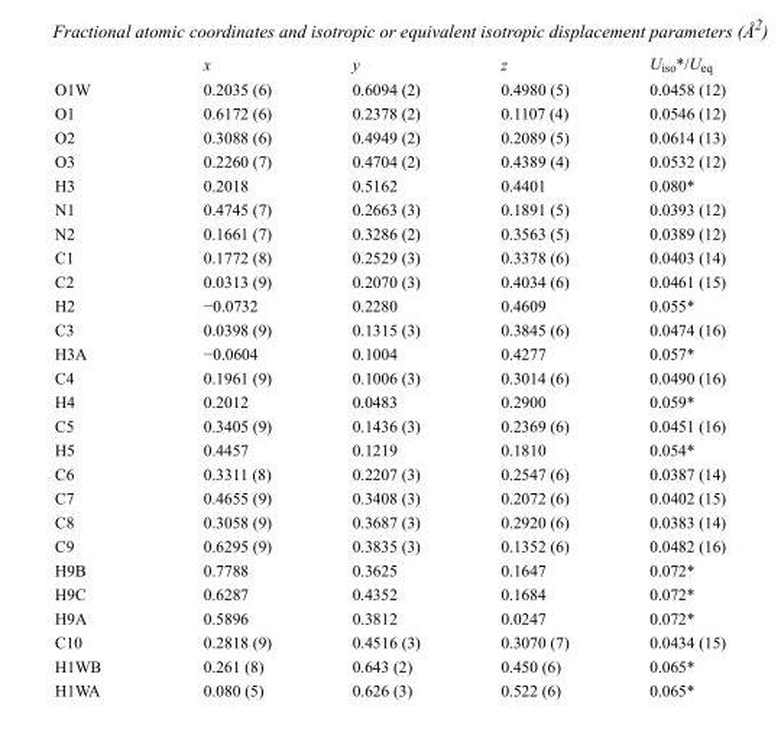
<table><thead><tr><td></td><td>x</td><td>y</td><td>z</td><td>U<sub>iso</sub>*/U<sub>eq</sub></td></tr></thead><tbody><tr><td>O1W</td><td>0.2035 (6)</td><td>0.6094 (2)</td><td>0.4980 (5)</td><td>0.0458 (12)</td></tr><tr><td>O1</td><td>0.6172 (6)</td><td>0.2378 (2)</td><td>0.1107 (4)</td><td>0.0546 (12)</td></tr><tr><td>O2</td><td>0.3088 (6)</td><td>0.4949 (2)</td><td>0.2089 (5)</td><td>0.0614 (13)</td></tr><tr><td>O3</td><td>0.2260 (7)</td><td>0.4704 (2)</td><td>0.4389 (4)</td><td>0.0532 (12)</td></tr><tr><td>H3</td><td>0.2018</td><td>0.5162</td><td>0.4401</td><td>0.080*</td></tr><tr><td>N1</td><td>0.4745 (7)</td><td>0.2663 (3)</td><td>0.1891 (5)</td><td>0.0393 (12)</td></tr><tr><td>N2</td><td>0.1661 (7)</td><td>0.3286 (2)</td><td>0.3563 (5)</td><td>0.0389 (12)</td></tr><tr><td>C1</td><td>0.1772 (8)</td><td>0.2529 (3)</td><td>0.3378 (6)</td><td>0.0403 (14)</td></tr><tr><td>C2</td><td>0.0313 (9)</td><td>0.2070 (3)</td><td>0.4034 (6)</td><td>0.0461 (15)</td></tr><tr><td>H2</td><td>−0.0732</td><td>0.2280</td><td>0.4609</td><td>0.055*</td></tr><tr><td>C3</td><td>0.0398 (9)</td><td>0.1315 (3)</td><td>0.3845 (6)</td><td>0.0474 (16)</td></tr><tr><td>H3A</td><td>−0.0604</td><td>0.1004</td><td>0.4277</td><td>0.057*</td></tr><tr><td>C4</td><td>0.1961 (9)</td><td>0.1006 (3)</td><td>0.3014 (6)</td><td>0.0490 (16)</td></tr><tr><td>H4</td><td>0.2012</td><td>0.0483</td><td>0.2900</td><td>0.059*</td></tr><tr><td>C5</td><td>0.3405 (9)</td><td>0.1436 (3)</td><td>0.2369 (6)</td><td>0.0451 (16)</td></tr><tr><td>H5</td><td>0.4457</td><td>0.1219</td><td>0.1810</td><td>0.054*</td></tr><tr><td>C6</td><td>0.3311 (8)</td><td>0.2207 (3)</td><td>0.2547 (6)</td><td>0.0387 (14)</td></tr><tr><td>C7</td><td>0.4655 (9)</td><td>0.3408 (3)</td><td>0.2072 (6)</td><td>0.0402 (15)</td></tr><tr><td>C8</td><td>0.3058 (9)</td><td>0.3687 (3)</td><td>0.2920 (6)</td><td>0.0383 (14)</td></tr><tr><td>C9</td><td>0.6295 (9)</td><td>0.3835 (3)</td><td>0.1352 (6)</td><td>0.0482 (16)</td></tr><tr><td>H9B</td><td>0.7788</td><td>0.3625</td><td>0.1647</td><td>0.072*</td></tr><tr><td>H9C</td><td>0.6287</td><td>0.4352</td><td>0.1684</td><td>0.072*</td></tr><tr><td>H9A</td><td>0.5896</td><td>0.3812</td><td>0.0247</td><td>0.072*</td></tr><tr><td>C10</td><td>0.2818 (9)</td><td>0.4516 (3)</td><td>0.3070 (7)</td><td>0.0434 (15)</td></tr><tr><td>H1WB</td><td>0.261 (8)</td><td>0.643 (2)</td><td>0.450 (6)</td><td>0.065*</td></tr><tr><td>H1WA</td><td>0.080 (5)</td><td>0.626 (3)</td><td>0.522 (6)</td><td>0.065*</td></tr></tbody></table>